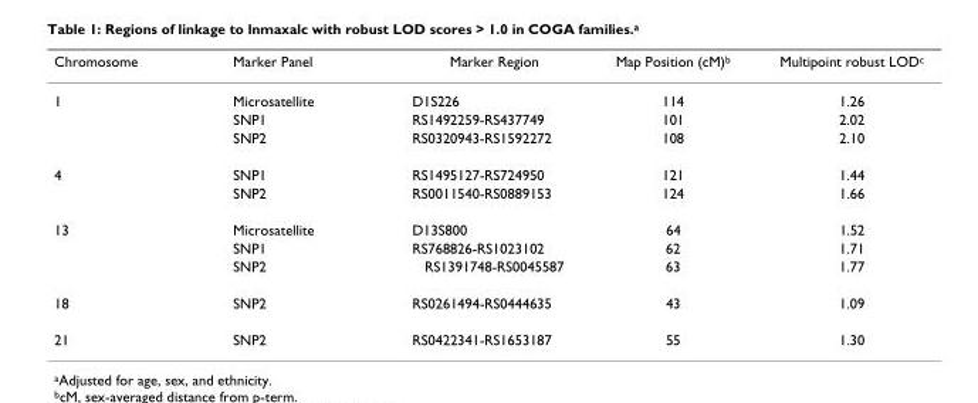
<table><thead><tr><td>Chromosome</td><td>Marker Panel</td><td>Marker Region</td><td>Map Position (cM)b</td><td>Multipoint robust LODc</td></tr></thead><tbody><tr><td rowspan="3">1</td><td>Microsatellite</td><td>D1S226</td><td>114</td><td>1.26</td></tr><tr><td>SNP1</td><td>RS1492259-RS437749</td><td>101</td><td>2.02</td></tr><tr><td>SNP2</td><td>RS0320943-RS1592272</td><td>108</td><td>2.10</td></tr><tr><td rowspan="2">4</td><td>SNP1</td><td>RS1495127-RS724950</td><td>121</td><td>1.44</td></tr><tr><td>SNP2</td><td>RS0011540-RS0889153</td><td>124</td><td>1.66</td></tr><tr><td rowspan="3">13</td><td>Microsatellite</td><td>D13S800</td><td>64</td><td>1.52</td></tr><tr><td>SNP1</td><td>RS768826-RS1023102</td><td>62</td><td>1.71</td></tr><tr><td>SNP2</td><td>RS1391748-RS0045587</td><td>63</td><td>1.77</td></tr><tr><td>18</td><td>SNP2</td><td>RS0261494-RS0444635</td><td>43</td><td>1.09</td></tr><tr><td>21</td><td>SNP2</td><td>RS0422341-RS1653187</td><td>55</td><td>1.30</td></tr></tbody></table>